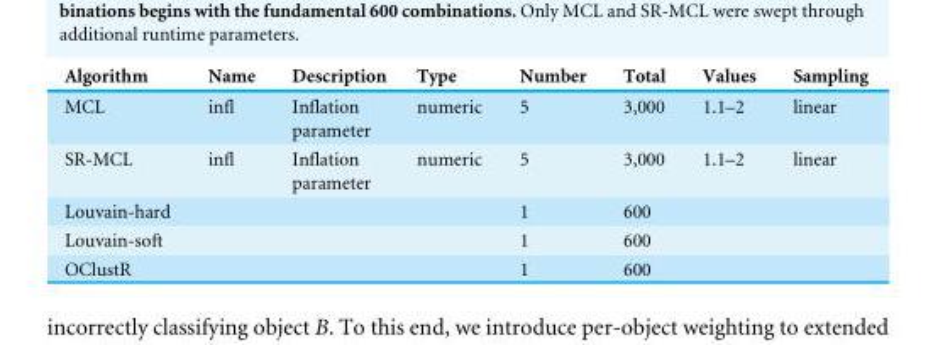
<table><thead><tr><td>Algorithm</td><td>Name</td><td>Description</td><td>Type</td><td>Number</td><td>Total</td><td>Values</td><td>Sampling</td></tr></thead><tbody><tr><td>MCL</td><td>infl</td><td>Inflation parameter</td><td>numeric</td><td>5</td><td>3,000</td><td>1.1–2</td><td>linear</td></tr><tr><td>SR-MCL</td><td>infl</td><td>Inflation parameter</td><td>numeric</td><td>5</td><td>3,000</td><td>1.1–2</td><td>linear</td></tr><tr><td>Louvain-hard</td><td></td><td></td><td></td><td>1</td><td>600</td><td></td><td></td></tr><tr><td>Louvain-soft</td><td></td><td></td><td></td><td>1</td><td>600</td><td></td><td></td></tr><tr><td>OClustR</td><td></td><td></td><td></td><td>1</td><td>600</td><td></td><td></td></tr></tbody></table>